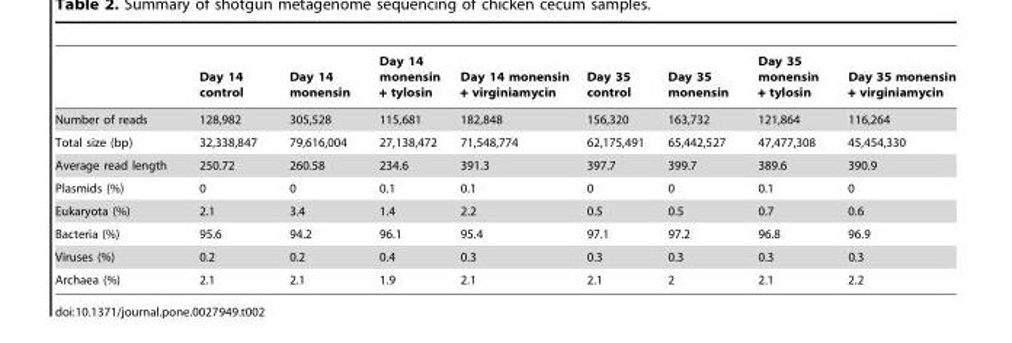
<table><thead><tr><td></td><td>Day 14 control</td><td>Day 14 monensin</td><td>Day 14 monensin + tylosin</td><td>Day 14 monensin + virginiamycin</td><td>Day 35 control</td><td>Day 35 monensin</td><td>Day 35 monensin + tylosin</td><td>Day 35 monensin + virginiamycin</td></tr></thead><tbody><tr><td>Number of reads</td><td>128,982</td><td>305,528</td><td>115,681</td><td>182,848</td><td>156,320</td><td>163,732</td><td>121,864</td><td>116,264</td></tr><tr><td>Total size (bp)</td><td>32,338,847</td><td>79,616,004</td><td>27,138,472</td><td>71,548,774</td><td>62,175,491</td><td>65,442,527</td><td>47,477,308</td><td>45,454,330</td></tr><tr><td>Average read length</td><td>250.72</td><td>260.58</td><td>234.6</td><td>391.3</td><td>397.7</td><td>399.7</td><td>389.6</td><td>390.9</td></tr><tr><td>Plasmids (%)</td><td>0</td><td>0</td><td>0.1</td><td>0.1</td><td>0</td><td>0</td><td>0.1</td><td>0</td></tr><tr><td>Eukaryota (%)</td><td>2.1</td><td>3.4</td><td>1.4</td><td>2.2</td><td>0.5</td><td>0.5</td><td>0.7</td><td>0.6</td></tr><tr><td>Bacteria (%)</td><td>95.6</td><td>94.2</td><td>96.1</td><td>95.4</td><td>97.1</td><td>97.2</td><td>96.8</td><td>96.9</td></tr><tr><td>Viruses (%)</td><td>0.2</td><td>0.2</td><td>0.4</td><td>0.3</td><td>0.3</td><td>0.3</td><td>0.3</td><td>0.3</td></tr><tr><td>Archaea (%)</td><td>2.1</td><td>2.1</td><td>1.9</td><td>2.1</td><td>2.1</td><td>2</td><td>2.1</td><td>2.2</td></tr></tbody></table>